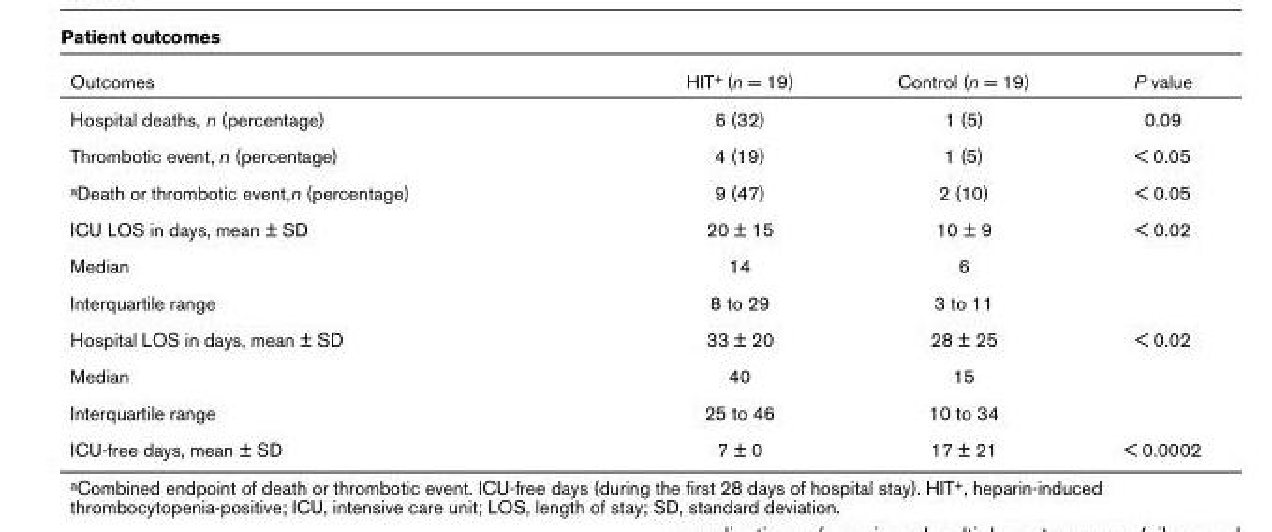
<table><thead><tr><td>Outcomes</td><td>HIT+ (n = 19)</td><td>Control (n = 19)</td><td>P value</td></tr></thead><tbody><tr><td>Hospital deaths, n (percentage)</td><td>6 (32)</td><td>1 (5)</td><td>0.09</td></tr><tr><td>Thrombotic event, n (percentage)</td><td>4 (19)</td><td>1 (5)</td><td>&lt; 0.05</td></tr><tr><td>aDeath or thrombotic event,n (percentage)</td><td>9 (47)</td><td>2 (10)</td><td>&lt; 0.05</td></tr><tr><td>ICU LOS in days, mean ± SD</td><td>20 ± 15</td><td>10 ± 9</td><td>&lt; 0.02</td></tr><tr><td>Median</td><td>14</td><td>6</td><td></td></tr><tr><td>Interquartile range</td><td>8 to 29</td><td>3 to 11</td><td></td></tr><tr><td>Hospital LOS in days, mean ± SD</td><td>33 ± 20</td><td>28 ± 25</td><td>&lt; 0.02</td></tr><tr><td>Median</td><td>40</td><td>15</td><td></td></tr><tr><td>Interquartile range</td><td>25 to 46</td><td>10 to 34</td><td></td></tr><tr><td>ICU-free days, mean ± SD</td><td>7 ± 0</td><td>17 ± 21</td><td>&lt; 0.0002</td></tr></tbody></table>